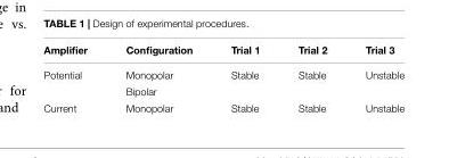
<table><thead><tr><td>Amplifier</td><td>Configuration</td><td>Trial 1</td><td>Trial 2</td><td>Trial 3</td></tr></thead><tbody><tr><td rowspan="2">Potential</td><td>Monopolar</td><td>Stable</td><td>Stable</td><td>Unstable</td></tr><tr><td>Bipolar</td><td></td><td></td><td></td></tr><tr><td>Current</td><td>Monopolar</td><td>Stable</td><td>Stable</td><td>Unstable</td></tr></tbody></table>